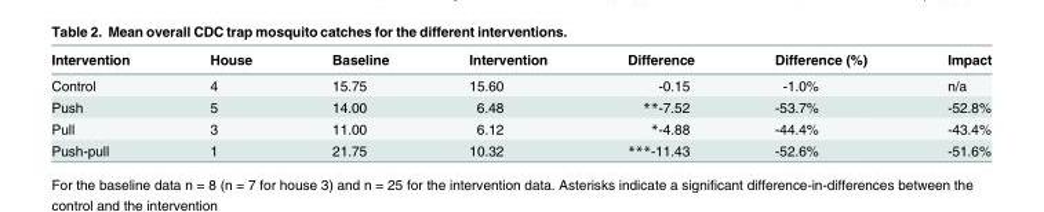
<table><thead><tr><td>Intervention</td><td>House</td><td>Baseline</td><td>Intervention</td><td>Difference</td><td>Difference (%)</td><td>Impact</td></tr></thead><tbody><tr><td>Control</td><td>4</td><td>15.75</td><td>15.60</td><td>-0.15</td><td>-1.0%</td><td>n/a</td></tr><tr><td>Push</td><td>5</td><td>14.00</td><td>6.48</td><td>**-7.52</td><td>-53.7%</td><td>-52.8%</td></tr><tr><td>Pull</td><td>3</td><td>11.00</td><td>6.12</td><td>*-4.88</td><td>-44.4%</td><td>-43.4%</td></tr><tr><td>Push-pull</td><td>1</td><td>21.75</td><td>10.32</td><td>***-11.43</td><td>-52.6%</td><td>-51.6%</td></tr></tbody></table>